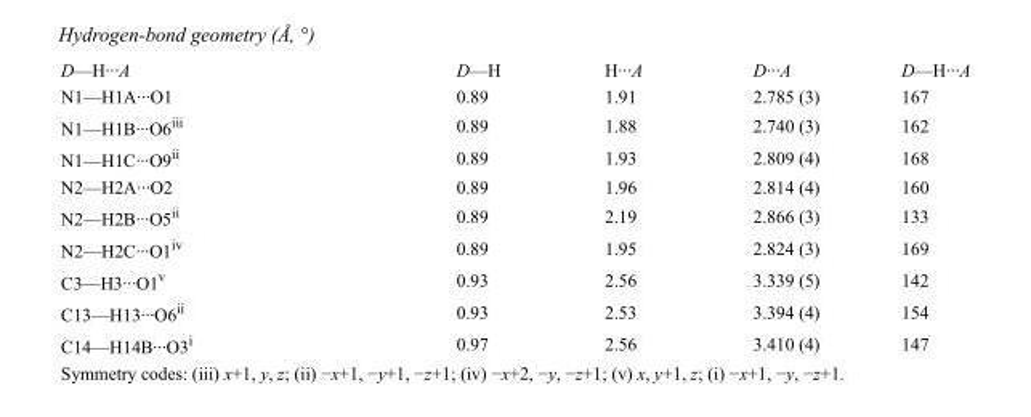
<table><tbody><tr><td>D—H···A</td><td>D—H</td><td>H···A</td><td>D···A</td><td>D—H···A</td></tr><tr><td>N1—H1A···O1</td><td>0.89</td><td>1.91</td><td>2.785 (3)</td><td>167</td></tr><tr><td>N1—H1B···O6<sup>iii</sup></td><td>0.89</td><td>1.88</td><td>2.740 (3)</td><td>162</td></tr><tr><td>N1—H1C···O9<sup>ii</sup></td><td>0.89</td><td>1.93</td><td>2.809 (4)</td><td>168</td></tr><tr><td>N2—H2A···O2</td><td>0.89</td><td>1.96</td><td>2.814 (4)</td><td>160</td></tr><tr><td>N2—H2B···O5<sup>ii</sup></td><td>0.89</td><td>2.19</td><td>2.866 (3)</td><td>133</td></tr><tr><td>N2—H2C···O1<sup>iv</sup></td><td>0.89</td><td>1.95</td><td>2.824 (3)</td><td>169</td></tr><tr><td>C3—H3···O1<sup>v</sup></td><td>0.93</td><td>2.56</td><td>3.339 (5)</td><td>142</td></tr><tr><td>C13—H13···O6<sup>ii</sup></td><td>0.93</td><td>2.53</td><td>3.394 (4)</td><td>154</td></tr><tr><td>C14—H14B···O3<sup>i</sup></td><td>0.97</td><td>2.56</td><td>3.410 (4)</td><td>147</td></tr></tbody></table>